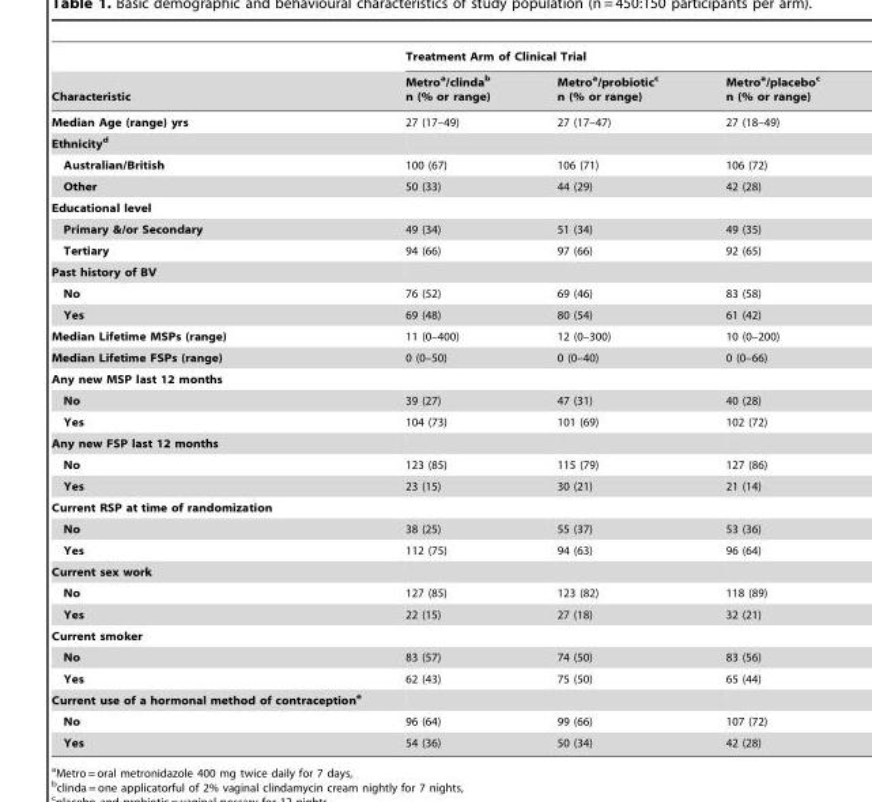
<table><thead><tr><td rowspan="2">Characteristic</td><td colspan="3">Treatment Arm of Clinical Trial</td></tr><tr><td>Metro<sup>a</sup>/clinda<sup>b</sup> n (% or range)</td><td>Metro<sup>a</sup>/probiotic<sup>c</sup> n (% or range)</td><td>Metro<sup>a</sup>/placebo<sup>c</sup> n (% or range)</td></tr></thead><tbody><tr><td>Median Age (range) yrs</td><td>27 (17–49)</td><td>27 (17–47)</td><td>27 (18–49)</td></tr><tr><td colspan="4">Ethnicityd</td></tr><tr><td>Australian/British</td><td>100 (67)</td><td>106 (71)</td><td>106 (72)</td></tr><tr><td>Other</td><td>50 (33)</td><td>44 (29)</td><td>42 (28)</td></tr><tr><td colspan="4">Educational level</td></tr><tr><td>Primary &amp;/or Secondary</td><td>49 (34)</td><td>51 (34)</td><td>49 (35)</td></tr><tr><td>Tertiary</td><td>94 (66)</td><td>97 (66)</td><td>92 (65)</td></tr><tr><td colspan="4">Past history of BV</td></tr><tr><td>No</td><td>76 (52)</td><td>69 (46)</td><td>83 (58)</td></tr><tr><td>Yes</td><td>69 (48)</td><td>80 (54)</td><td>61 (42)</td></tr><tr><td>Median Lifetime MSPs (range)</td><td>11 (0–400)</td><td>12 (0–300)</td><td>10 (0–200)</td></tr><tr><td>Median Lifetime FSPs (range)</td><td>0 (0–50)</td><td>0 (0–40)</td><td>0 (0–66)</td></tr><tr><td colspan="4">Any new MSP last 12 months</td></tr><tr><td>No</td><td>39 (27)</td><td>47 (31)</td><td>40 (28)</td></tr><tr><td>Yes</td><td>104 (73)</td><td>101 (69)</td><td>102 (72)</td></tr><tr><td colspan="4">Any new FSP last 12 months</td></tr><tr><td>No</td><td>123 (85)</td><td>115 (79)</td><td>127 (86)</td></tr><tr><td>Yes</td><td>23 (15)</td><td>30 (21)</td><td>21 (14)</td></tr><tr><td colspan="4">Current RSP at time of randomization</td></tr><tr><td>No</td><td>38 (25)</td><td>55 (37)</td><td>53 (36)</td></tr><tr><td>Yes</td><td>112 (75)</td><td>94 (63)</td><td>96 (64)</td></tr><tr><td colspan="4">Current sex work</td></tr><tr><td>No</td><td>127 (85)</td><td>123 (82)</td><td>118 (89)</td></tr><tr><td>Yes</td><td>22 (15)</td><td>27 (18)</td><td>32 (21)</td></tr><tr><td colspan="4">Current smoker</td></tr><tr><td>No</td><td>83 (57)</td><td>74 (50)</td><td>83 (56)</td></tr><tr><td>Yes</td><td>62 (43)</td><td>75 (50)</td><td>65 (44)</td></tr><tr><td colspan="4">Current use of a hormonal method of contraceptione</td></tr><tr><td>No</td><td>96 (64)</td><td>99 (66)</td><td>107 (72)</td></tr><tr><td>Yes</td><td>54 (36)</td><td>50 (34)</td><td>42 (28)</td></tr></tbody></table>